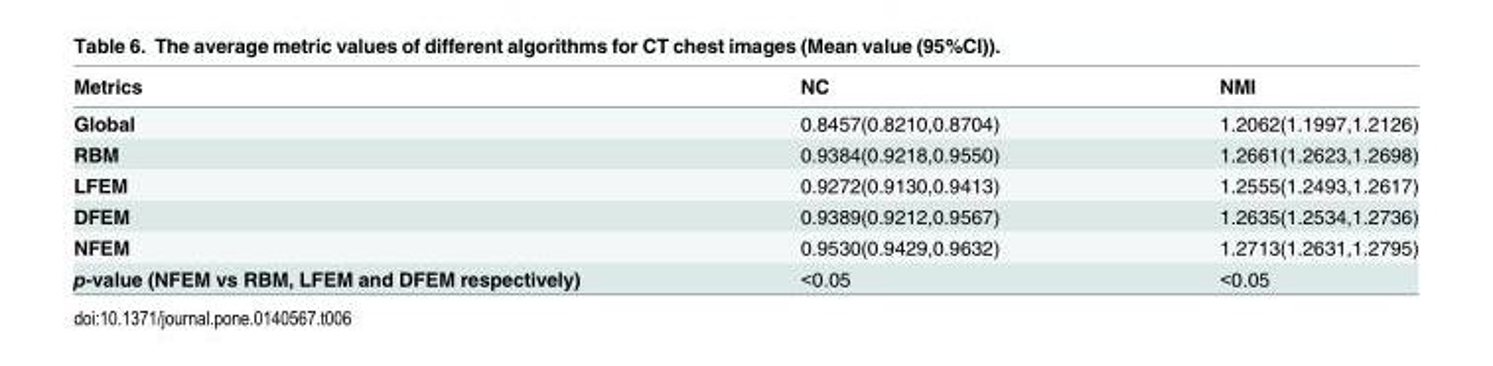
<table><thead><tr><td>Metrics</td><td>NC</td><td>NMI</td></tr></thead><tbody><tr><td>Global</td><td>0.8457(0.8210,0.8704)</td><td>1.2062(1.1997,1.2126)</td></tr><tr><td>RBM</td><td>0.9384(0.9218,0.9550)</td><td>1.2661(1.2623,1.2698)</td></tr><tr><td>LFEM</td><td>0.9272(0.9130,0.9413)</td><td>1.2555(1.2493,1.2617)</td></tr><tr><td>DFEM</td><td>0.9389(0.9212,0.9567)</td><td>1.2635(1.2534,1.2736)</td></tr><tr><td>NFEM</td><td>0.9530(0.9429,0.9632)</td><td>1.2713(1.2631,1.2795)</td></tr><tr><td>p-value (NFEM vs RBM, LFEM and DFEM respectively)</td><td>&lt;0.05</td><td>&lt;0.05</td></tr></tbody></table>